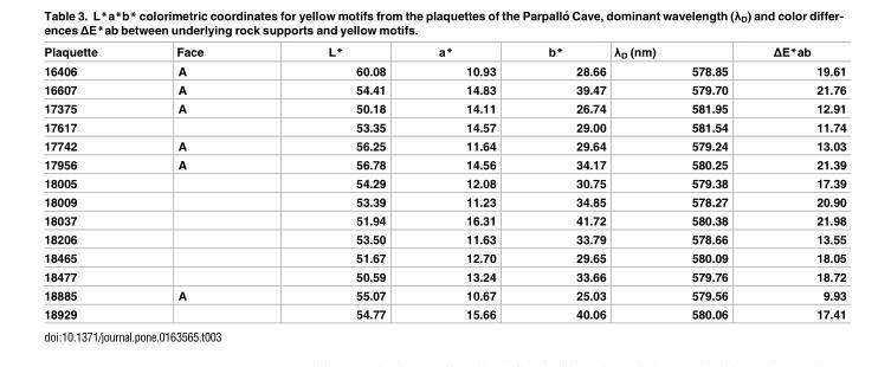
<table><thead><tr><td>Plaquette</td><td>Face</td><td>L*</td><td>a*</td><td>b*</td><td>λ<sub>D</sub> (nm)</td><td>ΔE*ab</td></tr></thead><tbody><tr><td>16406</td><td>A</td><td>60.08</td><td>10.93</td><td>28.66</td><td>578.85</td><td>19.61</td></tr><tr><td>16607</td><td>A</td><td>54.41</td><td>14.83</td><td>39.47</td><td>579.70</td><td>21.76</td></tr><tr><td>17375</td><td>A</td><td>50.18</td><td>14.11</td><td>26.74</td><td>581.95</td><td>12.91</td></tr><tr><td>17617</td><td></td><td>53.35</td><td>14.57</td><td>29.00</td><td>581.54</td><td>11.74</td></tr><tr><td>17742</td><td>A</td><td>56.25</td><td>11.64</td><td>29.64</td><td>579.24</td><td>13.03</td></tr><tr><td>17956</td><td>A</td><td>56.78</td><td>14.56</td><td>34.17</td><td>580.25</td><td>21.39</td></tr><tr><td>18005</td><td></td><td>54.29</td><td>12.08</td><td>30.75</td><td>579.38</td><td>17.39</td></tr><tr><td>18009</td><td></td><td>53.39</td><td>11.23</td><td>34.85</td><td>578.27</td><td>20.90</td></tr><tr><td>18037</td><td></td><td>51.94</td><td>16.31</td><td>41.72</td><td>580.38</td><td>21.98</td></tr><tr><td>18206</td><td></td><td>53.50</td><td>11.63</td><td>33.79</td><td>578.66</td><td>13.55</td></tr><tr><td>18465</td><td></td><td>51.67</td><td>12.70</td><td>29.65</td><td>580.09</td><td>18.05</td></tr><tr><td>18477</td><td></td><td>50.59</td><td>13.24</td><td>33.66</td><td>579.76</td><td>18.72</td></tr><tr><td>18885</td><td>A</td><td>55.07</td><td>10.67</td><td>25.03</td><td>579.56</td><td>9.93</td></tr><tr><td>18929</td><td></td><td>54.77</td><td>15.66</td><td>40.06</td><td>580.06</td><td>17.41</td></tr></tbody></table>